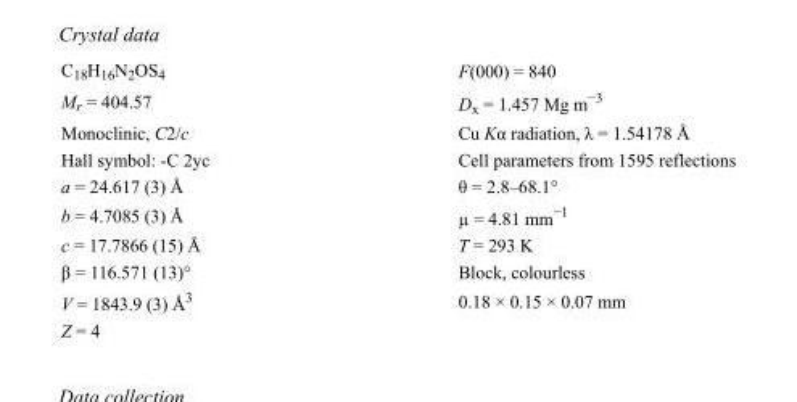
<table><tbody><tr><td>C<sub>18</sub>H<sub>16</sub>N<sub>2</sub>OS<sub>4</sub></td><td>F(000) = 840</td></tr><tr><td>M<sub>r</sub> = 404.57</td><td>D<sub>x</sub> = 1.457 Mg m<sup>−3</sup></td></tr><tr><td>Monoclinic, C2/c</td><td>Cu Kα radiation, λ = 1.54178 Å</td></tr><tr><td>Hall symbol: -C 2yc</td><td>Cell parameters from 1595 reflections</td></tr><tr><td>a = 24.617 (3) Å</td><td>θ = 2.8–68.1°</td></tr><tr><td>b = 4.7085 (3) Å</td><td>µ = 4.81 mm<sup>−1</sup></td></tr><tr><td>c = 17.7866 (15) Å</td><td>T = 293 K</td></tr><tr><td>β = 116.571 (13)°</td><td>Block, colourless</td></tr><tr><td>V = 1843.9 (3) Å<sup>3</sup></td><td>0.18 × 0.15 × 0.07 mm</td></tr><tr><td>Z = 4</td><td></td></tr></tbody></table>